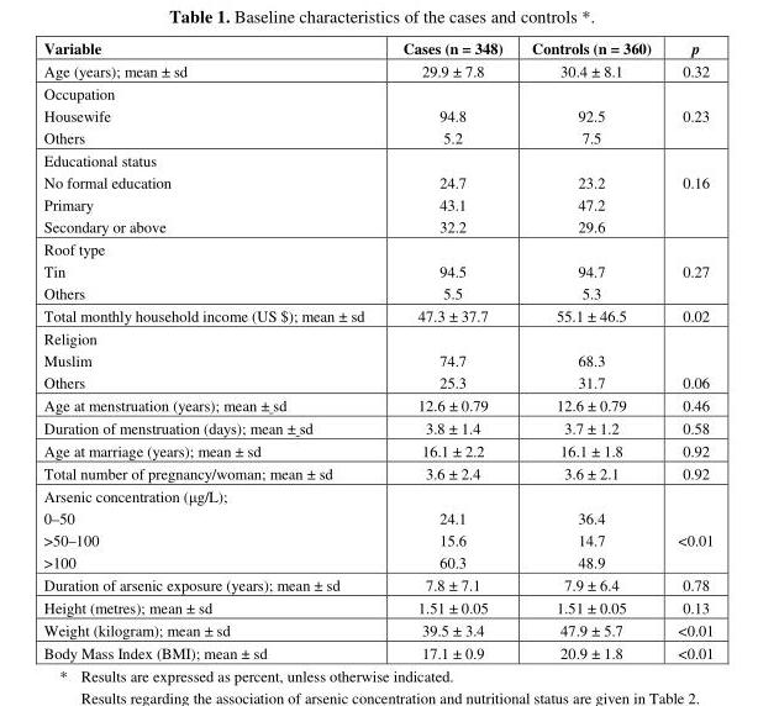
<table><thead><tr><td>Variable</td><td>Cases (n = 348)</td><td>Controls (n = 360)</td><td>p</td></tr></thead><tbody><tr><td>Age (years); mean ± sd</td><td>29.9 ± 7.8</td><td>30.4 ± 8.1</td><td>0.32</td></tr><tr><td>Occupation Housewife Others</td><td>94.8 5.2</td><td>92.5 7.5</td><td>0.23</td></tr><tr><td>Educational status No formal education Primary Secondary or above</td><td>24.7 43.1 32.2</td><td>23.2 47.2 29.6</td><td>0.16</td></tr><tr><td>Roof type Tin Others</td><td>94.5 5.5</td><td>94.7 5.3</td><td>0.27</td></tr><tr><td>Total monthly household income (US $); mean ± sd</td><td>47.3 ± 37.7</td><td>55.1 ± 46.5</td><td>0.02</td></tr><tr><td>Religion Muslim Others</td><td>74.7 25.3</td><td>68.3 31.7</td><td>0.06</td></tr><tr><td>Age at menstruation (years); mean ± sd</td><td>12.6 ± 0.79</td><td>12.6 ± 0.79</td><td>0.46</td></tr><tr><td>Duration of menstruation (days); mean ± sd</td><td>3.8 ± 1.4</td><td>3.7 ± 1.2</td><td>0.58</td></tr><tr><td>Age at marriage (years); mean ± sd</td><td>16.1 ± 2.2</td><td>16.1 ± 1.8</td><td>0.92</td></tr><tr><td>Total number of pregnancy/woman; mean ± sd</td><td>3.6 ± 2.4</td><td>3.6 ± 2.1</td><td>0.92</td></tr><tr><td>Arsenic concentration (µg/L); 0–50 &gt;50–100 &gt;100</td><td>24.1 15.6 60.3</td><td>36.4 14.7 48.9</td><td>&lt;0.01</td></tr><tr><td>Duration of arsenic exposure (years); mean ± sd</td><td>7.8 ± 7.1</td><td>7.9 ± 6.4</td><td>0.78</td></tr><tr><td>Height (metres); mean ± sd</td><td>1.51 ± 0.05</td><td>1.51 ± 0.05</td><td>0.13</td></tr><tr><td>Weight (kilogram); mean ± sd</td><td>39.5 ± 3.4</td><td>47.9 ± 5.7</td><td>&lt;0.01</td></tr><tr><td>Body Mass Index (BMI); mean ± sd</td><td>17.1 ± 0.9</td><td>20.9 ± 1.8</td><td>&lt;0.01</td></tr></tbody></table>